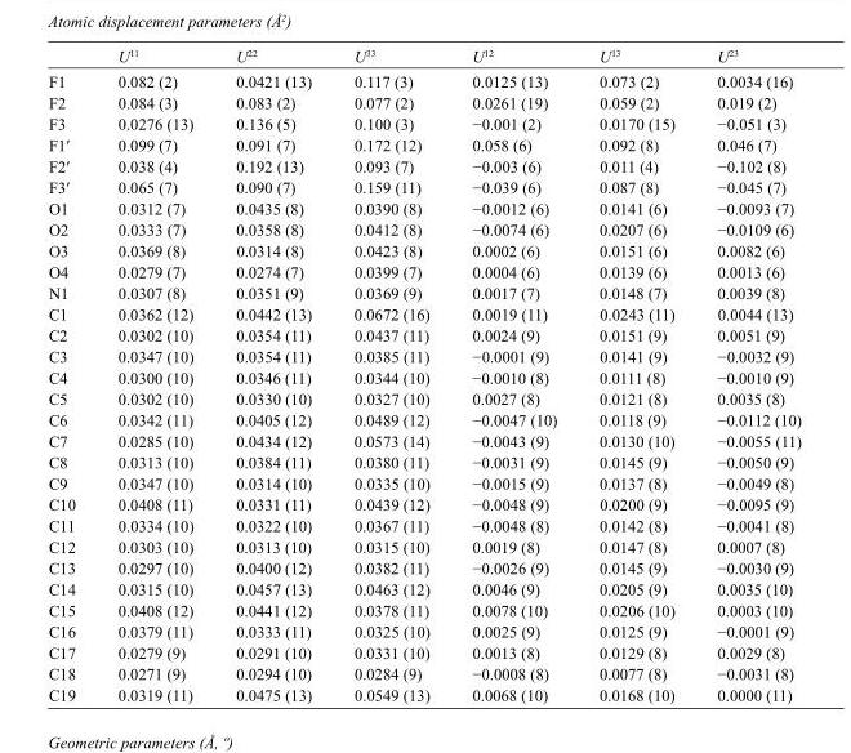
<table><thead><tr><td></td><td>U<sup>11</sup></td><td>U<sup>22</sup></td><td>U<sup>33</sup></td><td>U<sup>12</sup></td><td>U<sup>13</sup></td><td>U<sup>23</sup></td></tr></thead><tbody><tr><td>F1</td><td>0.082 (2)</td><td>0.0421 (13)</td><td>0.117 (3)</td><td>0.0125 (13)</td><td>0.073 (2)</td><td>0.0034 (16)</td></tr><tr><td>F2</td><td>0.084 (3)</td><td>0.083 (2)</td><td>0.077 (2)</td><td>0.0261 (19)</td><td>0.059 (2)</td><td>0.019 (2)</td></tr><tr><td>F3</td><td>0.0276 (13)</td><td>0.136 (5)</td><td>0.100 (3)</td><td>−0.001 (2)</td><td>0.0170 (15)</td><td>−0.051 (3)</td></tr><tr><td>F1′</td><td>0.099 (7)</td><td>0.091 (7)</td><td>0.172 (12)</td><td>0.058 (6)</td><td>0.092 (8)</td><td>0.046 (7)</td></tr><tr><td>F2′</td><td>0.038 (4)</td><td>0.192 (13)</td><td>0.093 (7)</td><td>−0.003 (6)</td><td>0.011 (4)</td><td>−0.102 (8)</td></tr><tr><td>F3′</td><td>0.065 (7)</td><td>0.090 (7)</td><td>0.159 (11)</td><td>−0.039 (6)</td><td>0.087 (8)</td><td>−0.045 (7)</td></tr><tr><td>O1</td><td>0.0312 (7)</td><td>0.0435 (8)</td><td>0.0390 (8)</td><td>−0.0012 (6)</td><td>0.0141 (6)</td><td>−0.0093 (7)</td></tr><tr><td>O2</td><td>0.0333 (7)</td><td>0.0358 (8)</td><td>0.0412 (8)</td><td>−0.0074 (6)</td><td>0.0207 (6)</td><td>−0.0109 (6)</td></tr><tr><td>O3</td><td>0.0369 (8)</td><td>0.0314 (8)</td><td>0.0423 (8)</td><td>0.0002 (6)</td><td>0.0151 (6)</td><td>0.0082 (6)</td></tr><tr><td>O4</td><td>0.0279 (7)</td><td>0.0274 (7)</td><td>0.0399 (7)</td><td>0.0004 (6)</td><td>0.0139 (6)</td><td>0.0013 (6)</td></tr><tr><td>N1</td><td>0.0307 (8)</td><td>0.0351 (9)</td><td>0.0369 (9)</td><td>0.0017 (7)</td><td>0.0148 (7)</td><td>0.0039 (8)</td></tr><tr><td>C1</td><td>0.0362 (12)</td><td>0.0442 (13)</td><td>0.0672 (16)</td><td>0.0019 (11)</td><td>0.0243 (11)</td><td>0.0044 (13)</td></tr><tr><td>C2</td><td>0.0302 (10)</td><td>0.0354 (11)</td><td>0.0437 (11)</td><td>0.0024 (9)</td><td>0.0151 (9)</td><td>0.0051 (9)</td></tr><tr><td>C3</td><td>0.0347 (10)</td><td>0.0354 (11)</td><td>0.0385 (11)</td><td>−0.0001 (9)</td><td>0.0141 (9)</td><td>−0.0032 (9)</td></tr><tr><td>C4</td><td>0.0300 (10)</td><td>0.0346 (11)</td><td>0.0344 (10)</td><td>−0.0010 (8)</td><td>0.0111 (8)</td><td>−0.0010 (9)</td></tr><tr><td>C5</td><td>0.0302 (10)</td><td>0.0330 (10)</td><td>0.0327 (10)</td><td>0.0027 (8)</td><td>0.0121 (8)</td><td>0.0035 (8)</td></tr><tr><td>C6</td><td>0.0342 (11)</td><td>0.0405 (12)</td><td>0.0489 (12)</td><td>−0.0047 (10)</td><td>0.0118 (9)</td><td>−0.0112 (10)</td></tr><tr><td>C7</td><td>0.0285 (10)</td><td>0.0434 (12)</td><td>0.0573 (14)</td><td>−0.0043 (9)</td><td>0.0130 (10)</td><td>−0.0055 (11)</td></tr><tr><td>C8</td><td>0.0313 (10)</td><td>0.0384 (11)</td><td>0.0380 (11)</td><td>−0.0031 (9)</td><td>0.0145 (9)</td><td>−0.0050 (9)</td></tr><tr><td>C9</td><td>0.0347 (10)</td><td>0.0314 (10)</td><td>0.0335 (10)</td><td>−0.0015 (9)</td><td>0.0137 (8)</td><td>−0.0049 (8)</td></tr><tr><td>C10</td><td>0.0408 (11)</td><td>0.0331 (11)</td><td>0.0439 (12)</td><td>−0.0048 (9)</td><td>0.0200 (9)</td><td>−0.0095 (9)</td></tr><tr><td>C11</td><td>0.0334 (10)</td><td>0.0322 (10)</td><td>0.0367 (11)</td><td>−0.0048 (8)</td><td>0.0142 (8)</td><td>−0.0041 (8)</td></tr><tr><td>C12</td><td>0.0303 (10)</td><td>0.0313 (10)</td><td>0.0315 (10)</td><td>0.0019 (8)</td><td>0.0147 (8)</td><td>0.0007 (8)</td></tr><tr><td>C13</td><td>0.0297 (10)</td><td>0.0400 (12)</td><td>0.0382 (11)</td><td>−0.0026 (9)</td><td>0.0145 (9)</td><td>−0.0030 (9)</td></tr><tr><td>C14</td><td>0.0315 (10)</td><td>0.0457 (13)</td><td>0.0463 (12)</td><td>0.0046 (9)</td><td>0.0205 (9)</td><td>0.0035 (10)</td></tr><tr><td>C15</td><td>0.0408 (12)</td><td>0.0441 (12)</td><td>0.0378 (11)</td><td>0.0078 (10)</td><td>0.0206 (10)</td><td>0.0003 (10)</td></tr><tr><td>C16</td><td>0.0379 (11)</td><td>0.0333 (11)</td><td>0.0325 (10)</td><td>0.0025 (9)</td><td>0.0125 (9)</td><td>−0.0001 (9)</td></tr><tr><td>C17</td><td>0.0279 (9)</td><td>0.0291 (10)</td><td>0.0331 (10)</td><td>0.0013 (8)</td><td>0.0129 (8)</td><td>0.0029 (8)</td></tr><tr><td>C18</td><td>0.0271 (9)</td><td>0.0294 (10)</td><td>0.0284 (9)</td><td>−0.0008 (8)</td><td>0.0077 (8)</td><td>−0.0031 (8)</td></tr><tr><td>C19</td><td>0.0319 (11)</td><td>0.0475 (13)</td><td>0.0549 (13)</td><td>0.0068 (10)</td><td>0.0168 (10)</td><td>0.0000 (11)</td></tr></tbody></table>